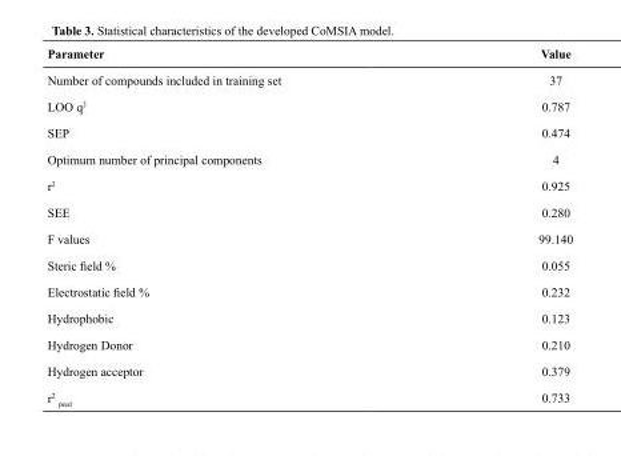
<table><thead><tr><td>Parameter</td><td>Value</td></tr></thead><tbody><tr><td>Number of compounds included in training set</td><td>37</td></tr><tr><td>LOO q<sup>2</sup></td><td>0.787</td></tr><tr><td>SEP</td><td>0.474</td></tr><tr><td>Optimum number of principal components</td><td>4</td></tr><tr><td>r<sup>2</sup></td><td>0.925</td></tr><tr><td>SEE</td><td>0.280</td></tr><tr><td>F values</td><td>99.140</td></tr><tr><td>Steric field %</td><td>0.055</td></tr><tr><td>Electrostatic field %</td><td>0.232</td></tr><tr><td>Hydrophobic</td><td>0.123</td></tr><tr><td>Hydrogen Donor</td><td>0.210</td></tr><tr><td>Hydrogen acceptor</td><td>0.379</td></tr><tr><td>r<sup>2</sup> <sub>pred</sub></td><td>0.733</td></tr></tbody></table>